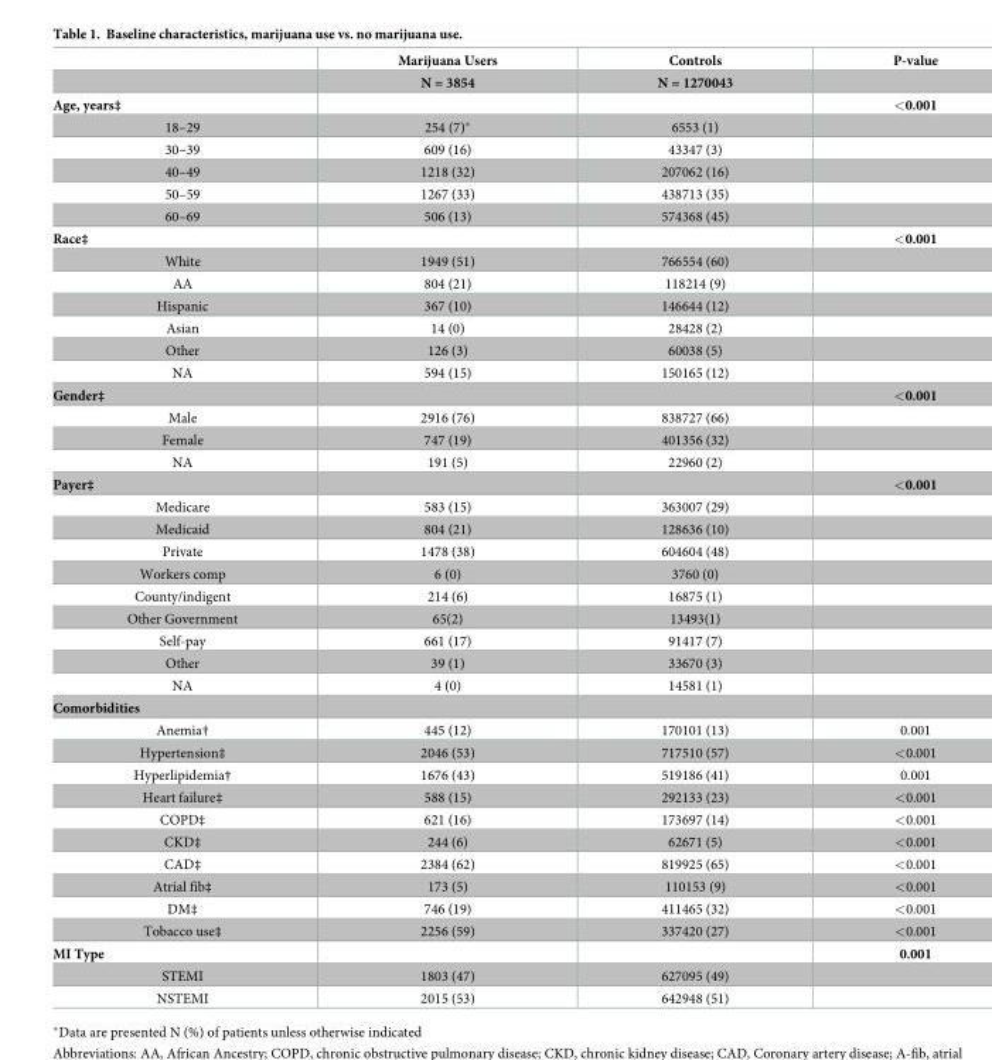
<table><thead><tr><td rowspan="2"></td><td rowspan="2">Marijuana Users N = 3854</td><td rowspan="2">Controls N = 1270043</td><td rowspan="2">P-value</td></tr><tr></tr></thead><tbody><tr><td>Age, years‡</td><td></td><td></td><td>&lt;0.001</td></tr><tr><td>18–29</td><td>254 (7)*</td><td>6553 (1)</td><td></td></tr><tr><td>30–39</td><td>609 (16)</td><td>43347 (3)</td><td></td></tr><tr><td>40–49</td><td>1218 (32)</td><td>207062 (16)</td><td></td></tr><tr><td>50–59</td><td>1267 (33)</td><td>438713 (35)</td><td></td></tr><tr><td>60–69</td><td>506 (13)</td><td>574368 (45)</td><td></td></tr><tr><td>Race‡</td><td></td><td></td><td>&lt;0.001</td></tr><tr><td>White</td><td>1949 (51)</td><td>766554 (60)</td><td></td></tr><tr><td>AA</td><td>804 (21)</td><td>118214 (9)</td><td></td></tr><tr><td>Hispanic</td><td>367 (10)</td><td>146644 (12)</td><td></td></tr><tr><td>Asian</td><td>14 (0)</td><td>28428 (2)</td><td></td></tr><tr><td>Other</td><td>126 (3)</td><td>60038 (5)</td><td></td></tr><tr><td>NA</td><td>594 (15)</td><td>150165 (12)</td><td></td></tr><tr><td>Gender‡</td><td></td><td></td><td>&lt;0.001</td></tr><tr><td>Male</td><td>2916 (76)</td><td>838727 (66)</td><td></td></tr><tr><td>Female</td><td>747 (19)</td><td>401356 (32)</td><td></td></tr><tr><td>NA</td><td>191 (5)</td><td>22960 (2)</td><td></td></tr><tr><td>Payer‡</td><td></td><td></td><td>&lt;0.001</td></tr><tr><td>Medicare</td><td>583 (15)</td><td>363007 (29)</td><td></td></tr><tr><td>Medicaid</td><td>804 (21)</td><td>128636 (10)</td><td></td></tr><tr><td>Private</td><td>1478 (38)</td><td>604604 (48)</td><td></td></tr><tr><td>Workers comp</td><td>6 (0)</td><td>3760 (0)</td><td></td></tr><tr><td>County/indigent</td><td>214 (6)</td><td>16875 (1)</td><td></td></tr><tr><td>Other Government</td><td>65(2)</td><td>13493(1)</td><td></td></tr><tr><td>Self-pay</td><td>661 (17)</td><td>91417 (7)</td><td></td></tr><tr><td>Other</td><td>39 (1)</td><td>33670 (3)</td><td></td></tr><tr><td>NA</td><td>4 (0)</td><td>14581 (1)</td><td></td></tr><tr><td colspan="4">Comorbidities</td></tr><tr><td>Anemia†</td><td>445 (12)</td><td>170101 (13)</td><td>0.001</td></tr><tr><td>Hypertension‡</td><td>2046 (53)</td><td>717510 (57)</td><td>&lt;0.001</td></tr><tr><td>Hyperlipidemia†</td><td>1676 (43)</td><td>519186 (41)</td><td>0.001</td></tr><tr><td>Heart failure‡</td><td>588 (15)</td><td>292133 (23)</td><td>&lt;0.001</td></tr><tr><td>COPD‡</td><td>621 (16)</td><td>173697 (14)</td><td>&lt;0.001</td></tr><tr><td>CKD‡</td><td>244 (6)</td><td>62671 (5)</td><td>&lt;0.001</td></tr><tr><td>CAD‡</td><td>2384 (62)</td><td>819925 (65)</td><td>&lt;0.001</td></tr><tr><td>Atrial fib‡</td><td>173 (5)</td><td>110153 (9)</td><td>&lt;0.001</td></tr><tr><td>DM‡</td><td>746 (19)</td><td>411465 (32)</td><td>&lt;0.001</td></tr><tr><td>Tobacco use‡</td><td>2256 (59)</td><td>337420 (27)</td><td>&lt;0.001</td></tr><tr><td>MI Type</td><td></td><td></td><td>0.001</td></tr><tr><td>STEMI</td><td>1803 (47)</td><td>627095 (49)</td><td></td></tr><tr><td>NSTEMI</td><td>2015 (53)</td><td>642948 (51)</td><td></td></tr></tbody></table>